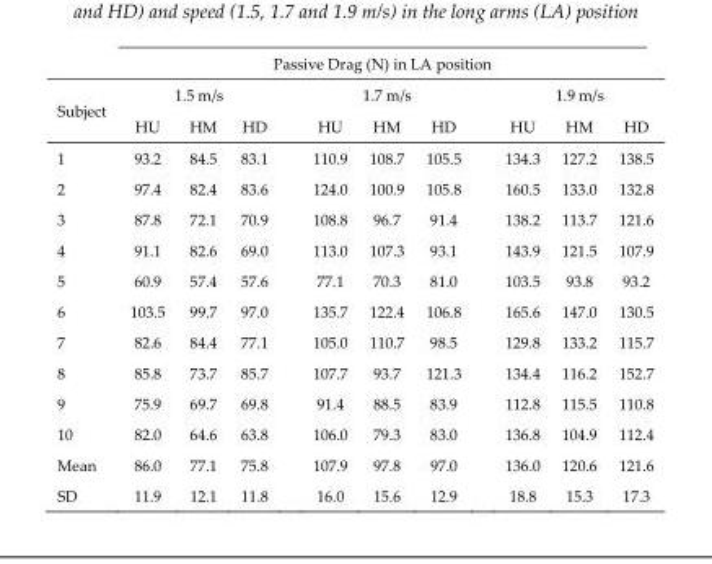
<table><thead><tr><td rowspan="3">Subject</td><td colspan="9">Passive Drag (N) in LA position</td></tr><tr><td colspan="3">1.5 m/s</td><td colspan="3">1.7 m/s</td><td colspan="3">1.9 m/s</td></tr><tr><td>HU</td><td>HM</td><td>HD</td><td>HU</td><td>HM</td><td>HD</td><td>HU</td><td>HM</td><td>HD</td></tr></thead><tbody><tr><td>1</td><td>93.2</td><td>84.5</td><td>83.1</td><td>110.9</td><td>108.7</td><td>105.5</td><td>134.3</td><td>127.2</td><td>138.5</td></tr><tr><td>2</td><td>97.4</td><td>82.4</td><td>83.6</td><td>124.0</td><td>100.9</td><td>105.8</td><td>160.5</td><td>133.0</td><td>132.8</td></tr><tr><td>3</td><td>87.8</td><td>72.1</td><td>70.9</td><td>108.8</td><td>96.7</td><td>91.4</td><td>138.2</td><td>113.7</td><td>121.6</td></tr><tr><td>4</td><td>91.1</td><td>82.6</td><td>69.0</td><td>113.0</td><td>107.3</td><td>93.1</td><td>143.9</td><td>121.5</td><td>107.9</td></tr><tr><td>5</td><td>60.9</td><td>57.4</td><td>57.6</td><td>77.1</td><td>70.3</td><td>81.0</td><td>103.5</td><td>93.8</td><td>93.2</td></tr><tr><td>6</td><td>103.5</td><td>99.7</td><td>97.0</td><td>135.7</td><td>122.4</td><td>106.8</td><td>165.6</td><td>147.0</td><td>130.5</td></tr><tr><td>7</td><td>82.6</td><td>84.4</td><td>77.1</td><td>105.0</td><td>110.7</td><td>98.5</td><td>129.8</td><td>133.2</td><td>115.7</td></tr><tr><td>8</td><td>85.8</td><td>73.7</td><td>85.7</td><td>107.7</td><td>93.7</td><td>121.3</td><td>134.4</td><td>116.2</td><td>152.7</td></tr><tr><td>9</td><td>75.9</td><td>69.7</td><td>69.8</td><td>91.4</td><td>88.5</td><td>83.9</td><td>112.8</td><td>115.5</td><td>110.8</td></tr><tr><td>10</td><td>82.0</td><td>64.6</td><td>63.8</td><td>106.0</td><td>79.3</td><td>83.0</td><td>136.8</td><td>104.9</td><td>112.4</td></tr><tr><td>Mean</td><td>86.0</td><td>77.1</td><td>75.8</td><td>107.9</td><td>97.8</td><td>97.0</td><td>136.0</td><td>120.6</td><td>121.6</td></tr><tr><td>SD</td><td>11.9</td><td>12.1</td><td>11.8</td><td>16.0</td><td>15.6</td><td>12.9</td><td>18.8</td><td>15.3</td><td>17.3</td></tr></tbody></table>